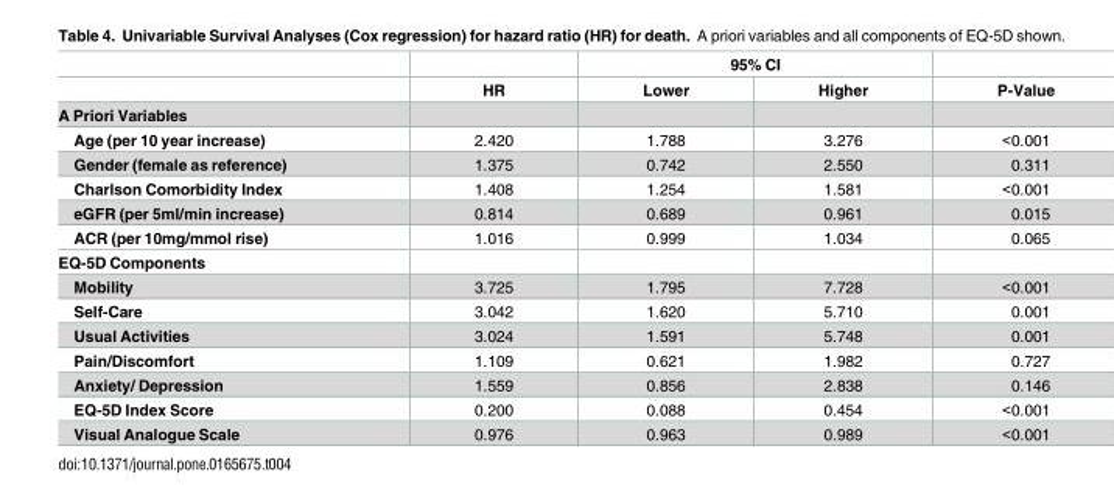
<table><thead><tr><td rowspan="2"></td><td rowspan="2">HR</td><td colspan="2">95% CI</td><td rowspan="2">P-Value</td></tr><tr><td>Lower</td><td>Higher</td></tr></thead><tbody><tr><td colspan="5">A Priori Variables</td></tr><tr><td>Age (per 10 year increase)</td><td>2.420</td><td>1.788</td><td>3.276</td><td>&lt;0.001</td></tr><tr><td>Gender (female as reference)</td><td>1.375</td><td>0.742</td><td>2.550</td><td>0.311</td></tr><tr><td>Charlson Comorbidity Index</td><td>1.408</td><td>1.254</td><td>1.581</td><td>&lt;0.001</td></tr><tr><td>eGFR (per 5ml/min increase)</td><td>0.814</td><td>0.689</td><td>0.961</td><td>0.015</td></tr><tr><td>ACR (per 10mg/mmol rise)</td><td>1.016</td><td>0.999</td><td>1.034</td><td>0.065</td></tr><tr><td colspan="5">EQ-5D Components</td></tr><tr><td>Mobility</td><td>3.725</td><td>1.795</td><td>7.728</td><td>&lt;0.001</td></tr><tr><td>Self-Care</td><td>3.042</td><td>1.620</td><td>5.710</td><td>0.001</td></tr><tr><td>Usual Activities</td><td>3.024</td><td>1.591</td><td>5.748</td><td>0.001</td></tr><tr><td>Pain/Discomfort</td><td>1.109</td><td>0.621</td><td>1.982</td><td>0.727</td></tr><tr><td>Anxiety/ Depression</td><td>1.559</td><td>0.856</td><td>2.838</td><td>0.146</td></tr><tr><td>EQ-5D Index Score</td><td>0.200</td><td>0.088</td><td>0.454</td><td>&lt;0.001</td></tr><tr><td>Visual Analogue Scale</td><td>0.976</td><td>0.963</td><td>0.989</td><td>&lt;0.001</td></tr></tbody></table>